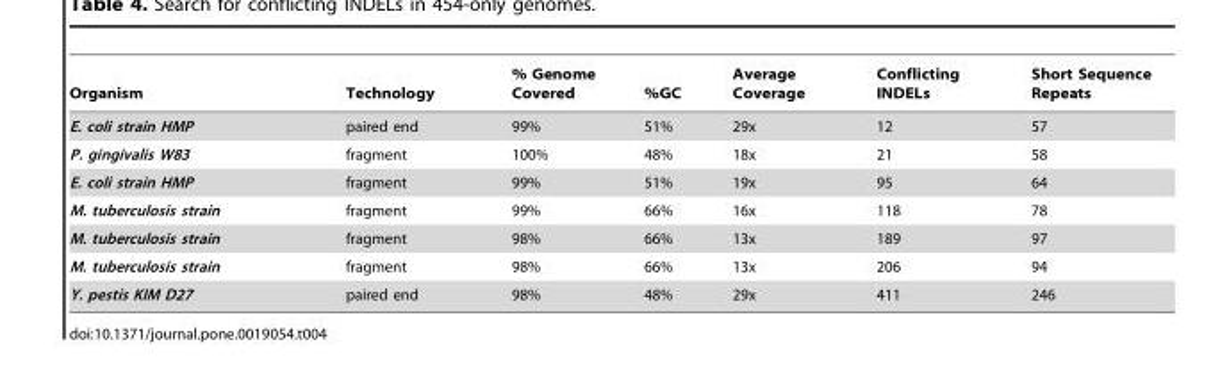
<table><thead><tr><td>Organism</td><td>Technology</td><td>% Genome Covered</td><td>%GC</td><td>Average Coverage</td><td>Conflicting INDELs</td><td>Short Sequence Repeats</td></tr></thead><tbody><tr><td>E. coli strain HMP</td><td>paired end</td><td>99%</td><td>51%</td><td>29x</td><td>12</td><td>57</td></tr><tr><td>P. gingivalis W83</td><td>fragment</td><td>100%</td><td>48%</td><td>18x</td><td>21</td><td>58</td></tr><tr><td>E. coli strain HMP</td><td>fragment</td><td>99%</td><td>51%</td><td>19x</td><td>95</td><td>64</td></tr><tr><td>M. tuberculosis strain</td><td>fragment</td><td>99%</td><td>66%</td><td>16x</td><td>118</td><td>78</td></tr><tr><td>M. tuberculosis strain</td><td>fragment</td><td>98%</td><td>66%</td><td>13x</td><td>189</td><td>97</td></tr><tr><td>M. tuberculosis strain</td><td>fragment</td><td>98%</td><td>66%</td><td>13x</td><td>206</td><td>94</td></tr><tr><td>Y. pestis KIM D27</td><td>paired end</td><td>98%</td><td>48%</td><td>29x</td><td>411</td><td>246</td></tr></tbody></table>